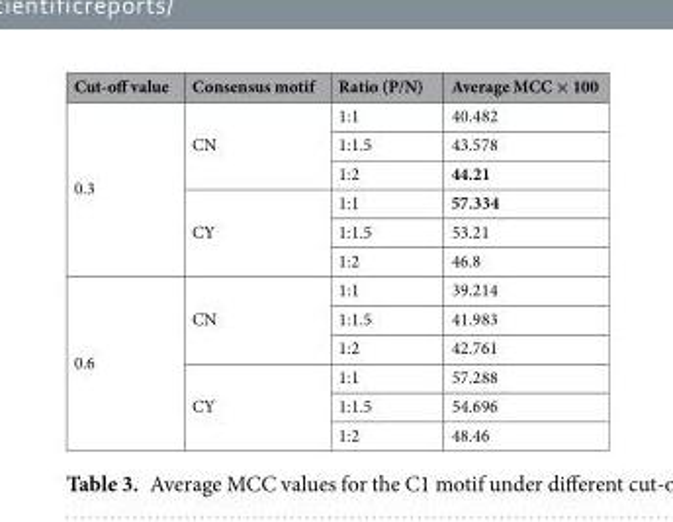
<table><thead><tr><td>Cut-off value</td><td>Consensus motif</td><td>Ratio (P/N)</td><td>Average MCC × 100</td></tr></thead><tbody><tr><td rowspan="6">0.3</td><td rowspan="3">CN</td><td>1:1</td><td>40.482</td></tr><tr><td>1:1.5</td><td>43.578</td></tr><tr><td>1:2</td><td>44.21</td></tr><tr><td rowspan="3">CY</td><td>1:1</td><td>57.334</td></tr><tr><td>1:1.5</td><td>53.21</td></tr><tr><td>1:2</td><td>46.8</td></tr><tr><td rowspan="6">0.6</td><td rowspan="3">CN</td><td>1:1</td><td>39.214</td></tr><tr><td>1:1.5</td><td>41.983</td></tr><tr><td>1:2</td><td>42.761</td></tr><tr><td rowspan="3">CY</td><td>1:1</td><td>57.288</td></tr><tr><td>1:1.5</td><td>54.696</td></tr><tr><td>1:2</td><td>48.46</td></tr></tbody></table>